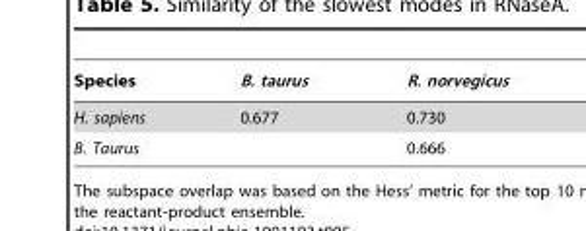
<table><thead><tr><td>Species</td><td>B. taurus</td><td>R. norvegicus</td></tr></thead><tbody><tr><td>H. sapiens</td><td>0.677</td><td>0.730</td></tr><tr><td>B. Taurus</td><td></td><td>0.666</td></tr></tbody></table>